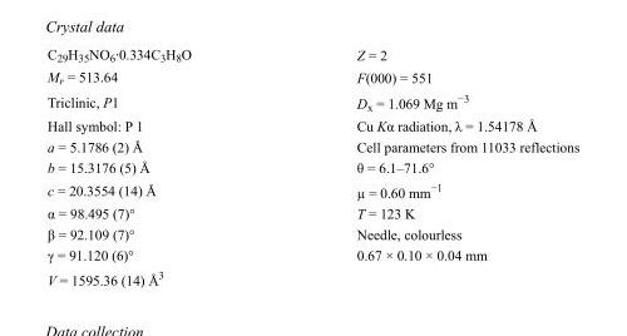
<table><tbody><tr><td>C<sub>29</sub>H<sub>35</sub>NO<sub>6</sub>·0.334C<sub>3</sub>H<sub>8</sub>O</td><td>Z = 2</td></tr><tr><td>M<sub>r</sub> = 513.64</td><td>F(000) = 551</td></tr><tr><td>Triclinic, P1</td><td>D<sub>x</sub> = 1.069 Mg m<sup>−3</sup></td></tr><tr><td>Hall symbol: P 1</td><td>Cu Kα radiation, λ = 1.54178 Å</td></tr><tr><td>a = 5.1786 (2) Å</td><td>Cell parameters from 11033 reflections</td></tr><tr><td>b = 15.3176 (5) Å</td><td>θ = 6.1–71.6°</td></tr><tr><td>c = 20.3554 (14) Å</td><td>µ = 0.60 mm<sup>−1</sup></td></tr><tr><td>α = 98.495 (7)°</td><td>T = 123 K</td></tr><tr><td>β = 92.109 (7)°</td><td>Needle, colourless</td></tr><tr><td>γ = 91.120 (6)°</td><td>0.67 × 0.10 × 0.04 mm</td></tr><tr><td>V = 1595.36 (14) Å<sup>3</sup></td><td></td></tr></tbody></table>